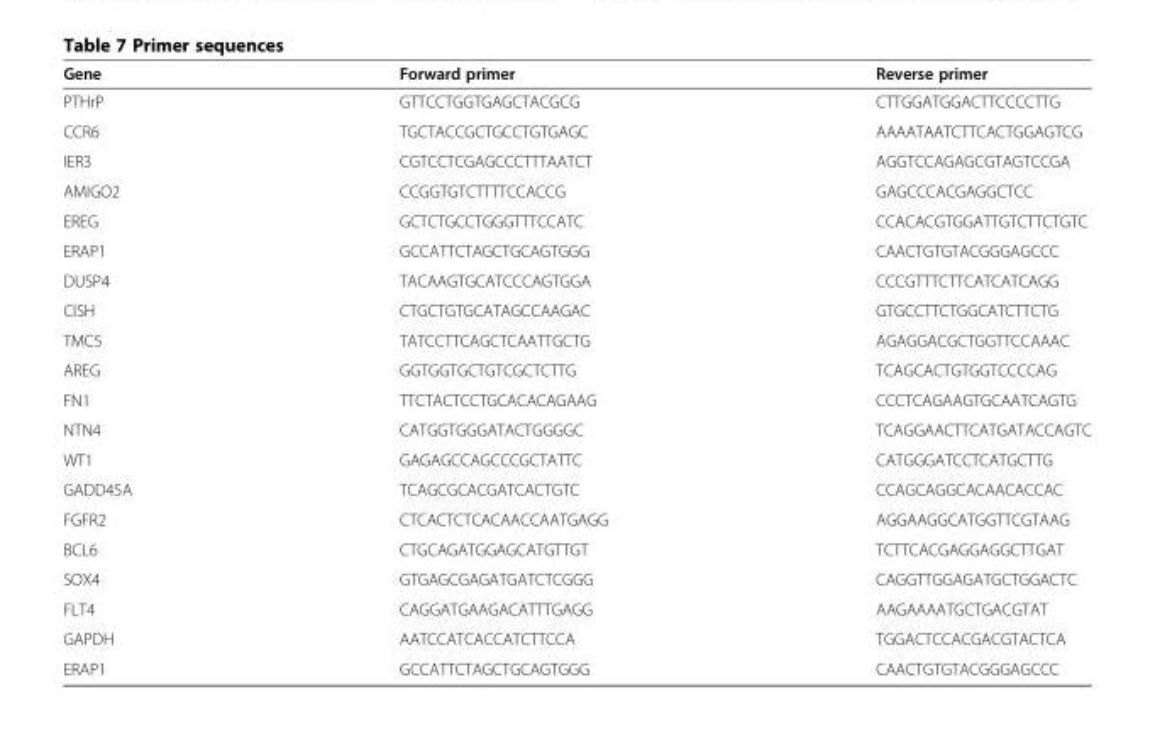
<table><thead><tr><td>Gene</td><td>Forward primer</td><td>Reverse primer</td></tr></thead><tbody><tr><td>PTHrP</td><td>GTTCCTGGTGAGCTACGCG</td><td>CTTGGATGGACTTCCCCTTG</td></tr><tr><td>CCR6</td><td>TGCTACCGCTGCCTGTGAGC</td><td>AAAATAATCTTCACTGGAGTCG</td></tr><tr><td>IER3</td><td>CGTCCTCGAGCCCTTTAATCT</td><td>AGGTCCAGAGCGTAGTCCGA</td></tr><tr><td>AMIGO2</td><td>CCGGTGTCTTTTCCACCG</td><td>GAGCCCACGAGGCTCC</td></tr><tr><td>EREG</td><td>GCTCTGCCTGGGTTTCCATC</td><td>CCACACGTGGATTGTCTTCTGTC</td></tr><tr><td>ERAP1</td><td>GCCATTCTAGCTGCAGTGGG</td><td>CAACTGTGTACGGGAGCCC</td></tr><tr><td>DUSP4</td><td>TACAAGTGCATCCCAGTGGA</td><td>CCCGTTTCTTCATCATCAGG</td></tr><tr><td>CISH</td><td>CTGCTGTGCATAGCCAAGAC</td><td>GTGCCTTCTGGCATCTTCTG</td></tr><tr><td>TMC5</td><td>TATCCTTCAGCTCAATTGCTG</td><td>AGAGGACGCTGGTTCCAAAC</td></tr><tr><td>AREG</td><td>GGTGGTGCTGTCGCTCTTG</td><td>TCAGCACTGTGGTCCCCAG</td></tr><tr><td>FN1</td><td>TTCTACTCCTGCACACAGAAG</td><td>CCCTCAGAAGTGCAATCAGTG</td></tr><tr><td>NTN4</td><td>CATGGTGGGATACTGGGGC</td><td>TCAGGAACTTCATGATACCAGTC</td></tr><tr><td>WT1</td><td>GAGAGCCAGCCCGCTATTC</td><td>CATGGGATCCTCATGCTTG</td></tr><tr><td>GADD45A</td><td>TCAGCGCACGATCACTGTC</td><td>CCAGCAGGCACAACACCAC</td></tr><tr><td>FGFR2</td><td>CTCACTCTCACAACCAATGAGG</td><td>AGGAAGGCATGGTTCGTAAG</td></tr><tr><td>BCL6</td><td>CTGCAGATGGAGCATGTTGT</td><td>TCTTCACGAGGAGGCTTGAT</td></tr><tr><td>SOX4</td><td>GTGAGCGAGATGATCTCGGG</td><td>CAGGTTGGAGATGCTGGACTC</td></tr><tr><td>FLT4</td><td>CAGGATGAAGACATTTGAGG</td><td>AAGAAAATGCTGACGTAT</td></tr><tr><td>GAPDH</td><td>AATCCATCACCATCTTCCA</td><td>TGGACTCCACGACGTACTCA</td></tr><tr><td>ERAP1</td><td>GCCATTCTAGCTGCAGTGGG</td><td>CAACTGTGTACGGGAGCCC</td></tr></tbody></table>